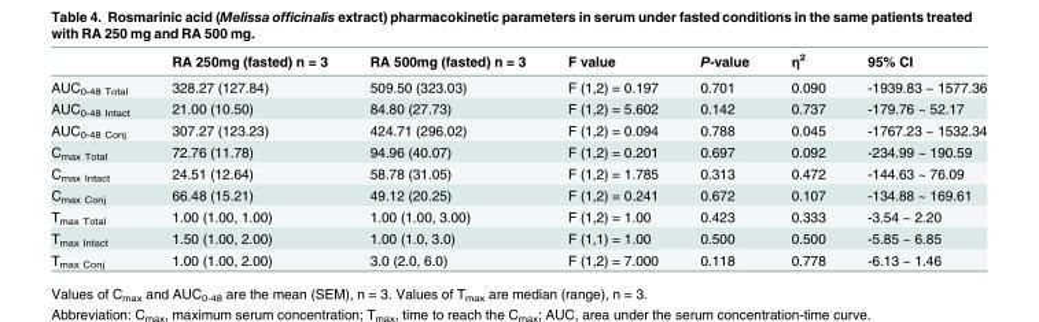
<table><thead><tr><td></td><td>RA 250mg (fasted) n = 3</td><td>RA 500mg (fasted) n = 3</td><td>F value</td><td>P-value</td><td>η<sup>2</sup></td><td>95% CI</td></tr></thead><tbody><tr><td>AUC<sub>0-48 Total</sub></td><td>328.27 (127.84)</td><td>509.50 (323.03)</td><td>F (1,2) = 0.197</td><td>0.701</td><td>0.090</td><td>-1939.83 ~ 1577.36</td></tr><tr><td>AUC<sub>0-48 Intact</sub></td><td>21.00 (10.50)</td><td>84.80 (27.73)</td><td>F (1,2) = 5.602</td><td>0.142</td><td>0.737</td><td>-179.76 ~ 52.17</td></tr><tr><td>AUC<sub>0-48 Conj</sub></td><td>307.27 (123.23)</td><td>424.71 (296.02)</td><td>F (1,2) = 0.094</td><td>0.788</td><td>0.045</td><td>-1767.23 ~ 1532.34</td></tr><tr><td>C<sub>max Total</sub></td><td>72.76 (11.78)</td><td>94.96 (40.07)</td><td>F (1,2) = 0.201</td><td>0.697</td><td>0.092</td><td>-234.99 ~ 190.59</td></tr><tr><td>C<sub>max Intact</sub></td><td>24.51 (12.64)</td><td>58.78 (31.05)</td><td>F (1,2) = 1.785</td><td>0.313</td><td>0.472</td><td>-144.63 ~ 76.09</td></tr><tr><td>C<sub>max Conj</sub></td><td>66.48 (15.21)</td><td>49.12 (20.25)</td><td>F (1,2) = 0.241</td><td>0.672</td><td>0.107</td><td>-134.88 ~ 169.61</td></tr><tr><td>T<sub>max Total</sub></td><td>1.00 (1.00, 1.00)</td><td>1.00 (1.00, 3.00)</td><td>F (1,2) = 1.00</td><td>0.423</td><td>0.333</td><td>-3.54 ~ 2.20</td></tr><tr><td>T<sub>max Intact</sub></td><td>1.50 (1.00, 2.00)</td><td>1.00 (1.0, 3.0)</td><td>F (1,1) = 1.00</td><td>0.500</td><td>0.500</td><td>-5.85 ~ 6.85</td></tr><tr><td>T<sub>max Conj</sub></td><td>1.00 (1.00, 2.00)</td><td>3.0 (2.0, 6.0)</td><td>F (1,2) = 7.000</td><td>0.118</td><td>0.778</td><td>-6.13 ~ 1.46</td></tr></tbody></table>